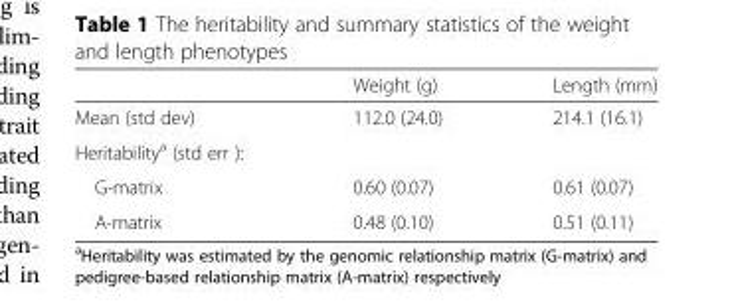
<table><thead><tr><td></td><td>Weight (g)</td><td>Length (mm)</td></tr></thead><tbody><tr><td>Mean (std dev)</td><td>112.0 (24.0)</td><td>214.1 (16.1)</td></tr><tr><td colspan="3">Heritability<sup>a</sup> (std err ):</td></tr><tr><td>G-matrix</td><td>0.60 (0.07)</td><td>0.61 (0.07)</td></tr><tr><td>A-matrix</td><td>0.48 (0.10)</td><td>0.51 (0.11)</td></tr></tbody></table>